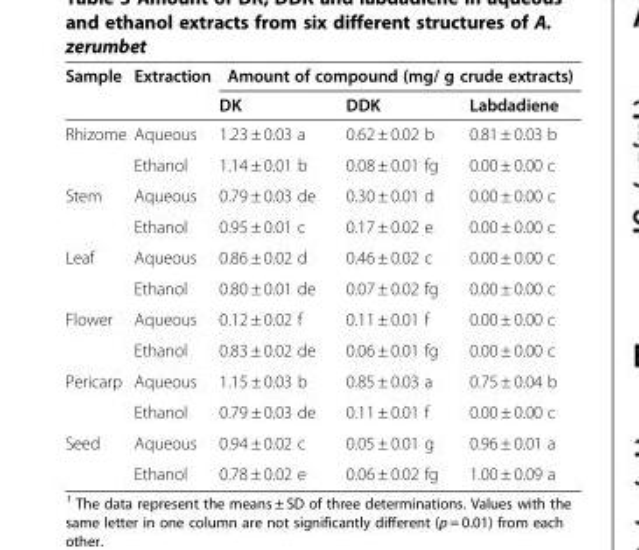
<table><thead><tr><td rowspan="2">Sample</td><td rowspan="2">Extraction</td><td colspan="3">Amount of compound (mg/ g crude extracts)</td></tr><tr><td>DK</td><td>DDK</td><td>Labdadiene</td></tr></thead><tbody><tr><td rowspan="2">Rhizome</td><td>Aqueous</td><td>1.23 ± 0.03 a</td><td>0.62 ± 0.02 b</td><td>0.81 ± 0.03 b</td></tr><tr><td>Ethanol</td><td>1.14 ± 0.01 b</td><td>0.08 ± 0.01 fg</td><td>0.00 ± 0.00 c</td></tr><tr><td rowspan="2">Stem</td><td>Aqueous</td><td>0.79 ± 0.03 de</td><td>0.30 ± 0.01 d</td><td>0.00 ± 0.00 c</td></tr><tr><td>Ethanol</td><td>0.95 ± 0.01 c</td><td>0.17 ± 0.02 e</td><td>0.00 ± 0.00 c</td></tr><tr><td rowspan="2">Leaf</td><td>Aqueous</td><td>0.86 ± 0.02 d</td><td>0.46 ± 0.02 c</td><td>0.00 ± 0.00 c</td></tr><tr><td>Ethanol</td><td>0.80 ± 0.01 de</td><td>0.07 ± 0.02 fg</td><td>0.00 ± 0.00 c</td></tr><tr><td rowspan="2">Flower</td><td>Aqueous</td><td>0.12 ± 0.02 f</td><td>0.11 ± 0.01 f</td><td>0.00 ± 0.00 c</td></tr><tr><td>Ethanol</td><td>0.83 ± 0.02 de</td><td>0.06 ± 0.01 fg</td><td>0.00 ± 0.00 c</td></tr><tr><td rowspan="2">Pericarp</td><td>Aqueous</td><td>1.15 ± 0.03 b</td><td>0.85 ± 0.03 a</td><td>0.75 ± 0.04 b</td></tr><tr><td>Ethanol</td><td>0.79 ± 0.03 de</td><td>0.11 ± 0.01 f</td><td>0.00 ± 0.00 c</td></tr><tr><td rowspan="2">Seed</td><td>Aqueous</td><td>0.94 ± 0.02 c</td><td>0.05 ± 0.01 g</td><td>0.96 ± 0.01 a</td></tr><tr><td>Ethanol</td><td>0.78 ± 0.02 e</td><td>0.06 ± 0.02 fg</td><td>1.00 ± 0.09 a</td></tr></tbody></table>